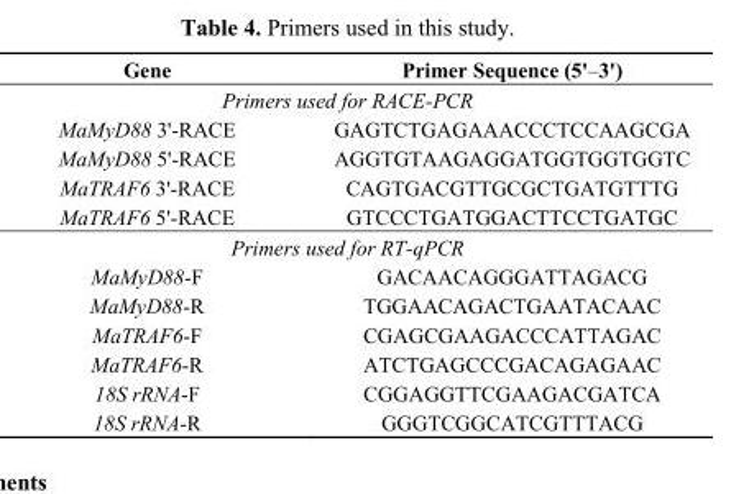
<table><thead><tr><td>Gene</td><td>Primer Sequence (5&#x27;–3&#x27;)</td></tr></thead><tbody><tr><td colspan="2">Primers used for RACE-PCR</td></tr><tr><td>MaMyD88 3&#x27;-RACE</td><td>GAGTCTGAGAAACCCTCCAAGCGA</td></tr><tr><td>MaMyD88 5&#x27;-RACE</td><td>AGGTGTAAGAGGATGGTGGTGGTC</td></tr><tr><td>MaTRAF6 3&#x27;-RACE</td><td>CAGTGACGTTGCGCTGATGTTTG</td></tr><tr><td>MaTRAF6 5&#x27;-RACE</td><td>GTCCCTGATGGACTTCCTGATGC</td></tr><tr><td colspan="2">Primers used for RT-qPCR</td></tr><tr><td>MaMyD88-F</td><td>GACAACAGGGATTAGACG</td></tr><tr><td>MaMyD88-R</td><td>TGGAACAGACTGAATACAAC</td></tr><tr><td>MaTRAF6-F</td><td>CGAGCGAAGACCCATTAGAC</td></tr><tr><td>MaTRAF6-R</td><td>ATCTGAGCCCGACAGAGAAC</td></tr><tr><td>18S rRNA-F</td><td>CGGAGGTTCGAAGACGATCA</td></tr><tr><td>18S rRNA-R</td><td>GGGTCGGCATCGTTTACG</td></tr></tbody></table>